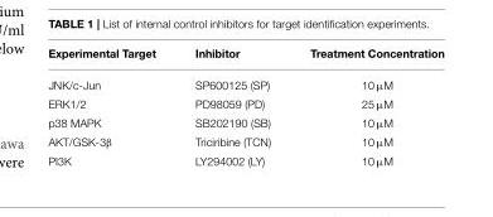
<table><thead><tr><td>Experimental Target</td><td>Inhibitor</td><td>Treatment Concentration</td></tr></thead><tbody><tr><td>JNK/c-Jun</td><td>SP600125 (SP)</td><td>10 µM</td></tr><tr><td>ERK1/2</td><td>PD98059 (PD)</td><td>25 µM</td></tr><tr><td>p38 MAPK</td><td>SB202190 (SB)</td><td>10 µM</td></tr><tr><td>AKT/GSK-3β</td><td>Triciribine (TCN)</td><td>10 µM</td></tr><tr><td>PI3K</td><td>LY294002 (LY)</td><td>10 µM</td></tr></tbody></table>